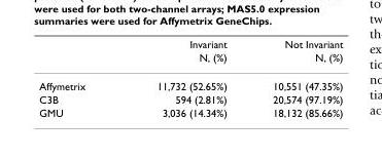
<table><thead><tr><td rowspan="2"></td><td rowspan="2">Invariant N, (%)</td><td rowspan="2">Not Invariant N, (%)</td></tr><tr></tr></thead><tbody><tr><td>Affymetrix</td><td>11,732 (52.65%)</td><td>10,551 (47.35%)</td></tr><tr><td>C3B</td><td>594 (2.81%)</td><td>20,574 (97.19%)</td></tr><tr><td>GMU</td><td>3,036 (14.34%)</td><td>18,132 (85.66%)</td></tr></tbody></table>